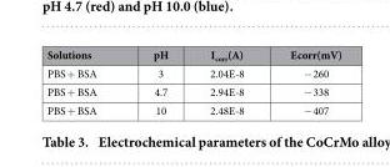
<table><thead><tr><td>Solutions</td><td>pH</td><td>I<sub>corr</sub>(A)</td><td>Ecorr(mV)</td></tr></thead><tbody><tr><td>PBS + BSA</td><td>3</td><td>2.04E-8</td><td>− 260</td></tr><tr><td>PBS + BSA</td><td>4.7</td><td>2.94E-8</td><td>− 338</td></tr><tr><td>PBS + BSA</td><td>10</td><td>2.48E-8</td><td>− 407</td></tr></tbody></table>